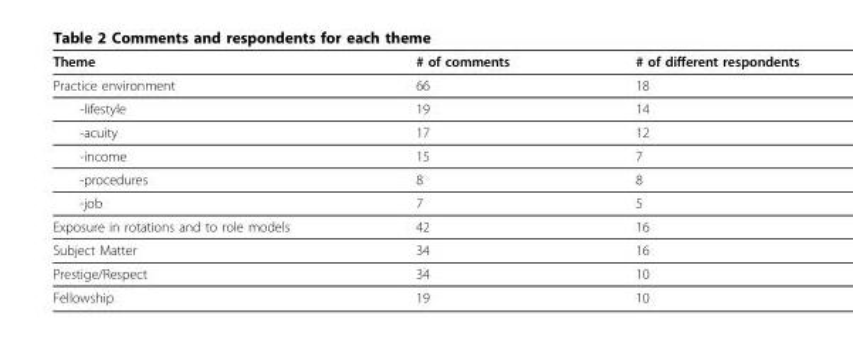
<table><thead><tr><td>Theme</td><td># of comments</td><td># of different respondents</td></tr></thead><tbody><tr><td>Practice environment</td><td>66</td><td>18</td></tr><tr><td>-lifestyle</td><td>19</td><td>14</td></tr><tr><td>-acuity</td><td>17</td><td>12</td></tr><tr><td>-income</td><td>15</td><td>7</td></tr><tr><td>-procedures</td><td>8</td><td>8</td></tr><tr><td>-job</td><td>7</td><td>5</td></tr><tr><td>Exposure in rotations and to role models</td><td>42</td><td>16</td></tr><tr><td>Subject Matter</td><td>34</td><td>16</td></tr><tr><td>Prestige/Respect</td><td>34</td><td>10</td></tr><tr><td>Fellowship</td><td>19</td><td>10</td></tr></tbody></table>